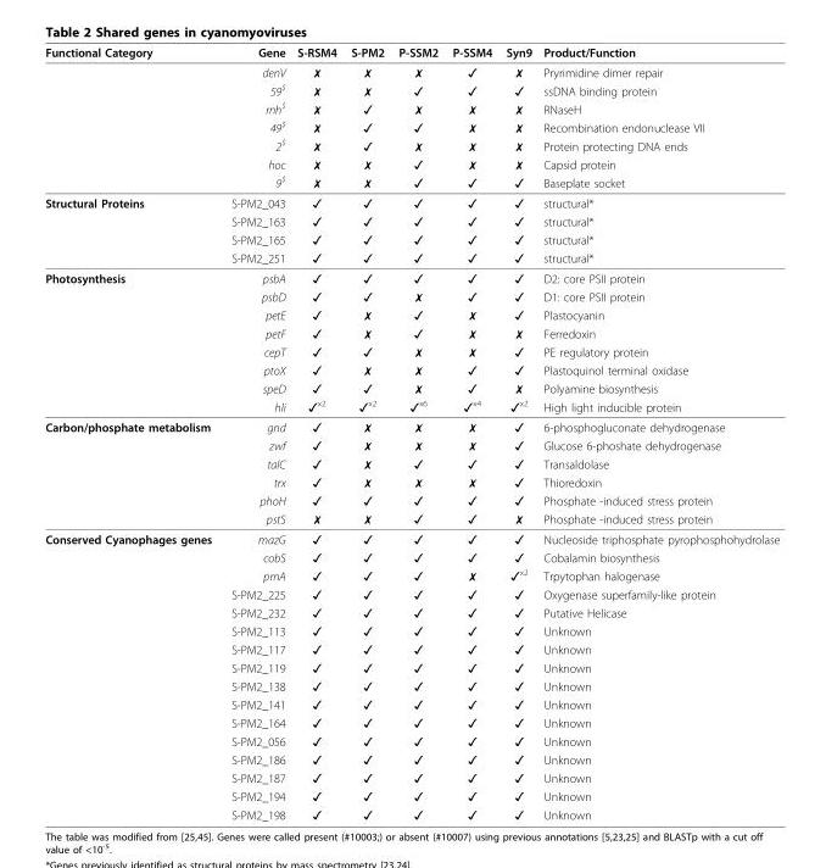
<table><thead><tr><td>Functional Category</td><td>Gene</td><td>S-RSM4</td><td>S-PM2</td><td>P-SSM2</td><td>P-SSM4</td><td>Syn9</td><td>Product/Function</td></tr></thead><tbody><tr><td></td><td>denV</td><td>✗</td><td>✗</td><td>✗</td><td>✓</td><td>✗</td><td>Pryrimidine dimer repair</td></tr><tr><td></td><td>59<sup>$</sup></td><td>✗</td><td>✗</td><td>✓</td><td>✓</td><td>✓</td><td>ssDNA binding protein</td></tr><tr><td></td><td>rnh<sup>$</sup></td><td>✗</td><td>✓</td><td>✗</td><td>✗</td><td>✗</td><td>RNaseH</td></tr><tr><td></td><td>49<sup>$</sup></td><td>✗</td><td>✓</td><td>✓</td><td>✗</td><td>✗</td><td>Recombination endonuclease VII</td></tr><tr><td></td><td>2<sup>$</sup></td><td>✗</td><td>✓</td><td>✗</td><td>✗</td><td>✗</td><td>Protein protecting DNA ends</td></tr><tr><td></td><td>hoc</td><td>✗</td><td>✗</td><td>✓</td><td>✗</td><td>✗</td><td>Capsid protein</td></tr><tr><td></td><td>9<sup>$</sup></td><td>✗</td><td>✗</td><td>✓</td><td>✓</td><td>✓</td><td>Baseplate socket</td></tr><tr><td rowspan="4">Structural Proteins</td><td>S-PM2_043</td><td>✓</td><td>✓</td><td>✓</td><td>✓</td><td>✓</td><td>structural*</td></tr><tr><td>S-PM2_163</td><td>✓</td><td>✓</td><td>✓</td><td>✓</td><td>✓</td><td>structural*</td></tr><tr><td>S-PM2_165</td><td>✓</td><td>✓</td><td>✓</td><td>✓</td><td>✓</td><td>structural*</td></tr><tr><td>S-PM2_251</td><td>✓</td><td>✓</td><td>✓</td><td>✓</td><td>✓</td><td>structural*</td></tr><tr><td rowspan="8">Photosynthesis</td><td>psbA</td><td>✓</td><td>✓</td><td>✓</td><td>✓</td><td>✓</td><td>D2: core PSII protein</td></tr><tr><td>psbD</td><td>✓</td><td>✓</td><td>✗</td><td>✓</td><td>✓</td><td>D1: core PSII protein</td></tr><tr><td>petE</td><td>✓</td><td>✗</td><td>✓</td><td>✗</td><td>✓</td><td>Plastocyanin</td></tr><tr><td>petF</td><td>✓</td><td>✗</td><td>✓</td><td>✗</td><td>✗</td><td>Ferredoxin</td></tr><tr><td>cepT</td><td>✓</td><td>✓</td><td>✗</td><td>✗</td><td>✓</td><td>PE regulatory protein</td></tr><tr><td>ptoX</td><td>✓</td><td>✗</td><td>✗</td><td>✓</td><td>✓</td><td>Plastoquinol terminal oxidase</td></tr><tr><td>speD</td><td>✓</td><td>✓</td><td>✗</td><td>✓</td><td>✗</td><td>Polyamine biosynthesis</td></tr><tr><td>hli</td><td>✓<sup>x2</sup></td><td>✓<sup>x2</sup></td><td>✓<sup>x6</sup></td><td>✓<sup>x4</sup></td><td>✓<sup>x2</sup></td><td>High light inducible protein</td></tr><tr><td rowspan="6">Carbon/phosphate metabolism</td><td>gnd</td><td>✓</td><td>✗</td><td>✗</td><td>✗</td><td>✓</td><td>6-phosphogluconate dehydrogenase</td></tr><tr><td>zwf</td><td>✓</td><td>✗</td><td>✗</td><td>✗</td><td>✓</td><td>Glucose 6-phoshate dehydrogenase</td></tr><tr><td>talC</td><td>✓</td><td>✗</td><td>✓</td><td>✓</td><td>✓</td><td>Transaldolase</td></tr><tr><td>trx</td><td>✓</td><td>✗</td><td>✗</td><td>✗</td><td>✓</td><td>Thioredoxin</td></tr><tr><td>phoH</td><td>✓</td><td>✓</td><td>✓</td><td>✓</td><td>✓</td><td>Phosphate -induced stress protein</td></tr><tr><td>pstS</td><td>✗</td><td>✗</td><td>✓</td><td>✓</td><td>✗</td><td>Phosphate -induced stress protein</td></tr><tr><td rowspan="16">Conserved Cyanophages genes</td><td>mazG</td><td>✓</td><td>✓</td><td>✓</td><td>✓</td><td>✓</td><td>Nucleoside triphosphate pyrophosphohydrolase</td></tr><tr><td>cobS</td><td>✓</td><td>✓</td><td>✓</td><td>✓</td><td>✓</td><td>Cobalamin biosynthesis</td></tr><tr><td>prnA</td><td>✓</td><td>✓</td><td>✓</td><td>✗</td><td>✓<sup>x2</sup></td><td>Trpytophan halogenase</td></tr><tr><td>S-PM2_225</td><td>✓</td><td>✓</td><td>✓</td><td>✓</td><td>✓</td><td>Oxygenase superfamily-like protein</td></tr><tr><td>S-PM2_232</td><td>✓</td><td>✓</td><td>✓</td><td>✓</td><td>✓</td><td>Putative Helicase</td></tr><tr><td>S-PM2_113</td><td>✓</td><td>✓</td><td>✓</td><td>✓</td><td>✓</td><td>Unknown</td></tr><tr><td>S-PM2_117</td><td>✓</td><td>✓</td><td>✓</td><td>✓</td><td>✓</td><td>Unknown</td></tr><tr><td>S-PM2_119</td><td>✓</td><td>✓</td><td>✓</td><td>✓</td><td>✓</td><td>Unknown</td></tr><tr><td>S-PM2_138</td><td>✓</td><td>✓</td><td>✓</td><td>✓</td><td>✓</td><td>Unknown</td></tr><tr><td>S-PM2_141</td><td>✓</td><td>✓</td><td>✓</td><td>✓</td><td>✓</td><td>Unknown</td></tr><tr><td>S-PM2_164</td><td>✓</td><td>✓</td><td>✓</td><td>✓</td><td>✓</td><td>Unknown</td></tr><tr><td>S-PM2_056</td><td>✓</td><td>✓</td><td>✓</td><td>✓</td><td>✓</td><td>Unknown</td></tr><tr><td>S-PM2_186</td><td>✓</td><td>✓</td><td>✓</td><td>✓</td><td>✓</td><td>Unknown</td></tr><tr><td>S-PM2_187</td><td>✓</td><td>✓</td><td>✓</td><td>✓</td><td>✓</td><td>Unknown</td></tr><tr><td>S-PM2_194</td><td>✓</td><td>✓</td><td>✓</td><td>✓</td><td>✓</td><td>Unknown</td></tr><tr><td>S-PM2_198</td><td>✓</td><td>✓</td><td>✓</td><td>✓</td><td>✓</td><td>Unknown</td></tr></tbody></table>